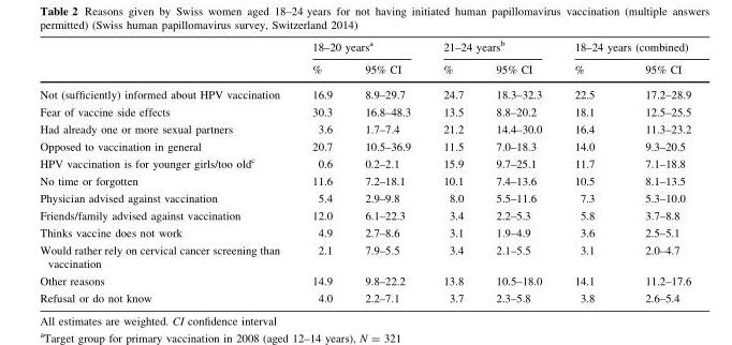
<table><thead><tr><td rowspan="2"></td><td colspan="2">18–20 years<sup>a</sup></td><td colspan="2">21–24 years<sup>b</sup></td><td colspan="2">18–24 years (combined)</td></tr><tr><td>%</td><td>95% CI</td><td>%</td><td>95% CI</td><td>%</td><td>95% CI</td></tr></thead><tbody><tr><td>Not (sufficiently) informed about HPV vaccination</td><td>16.9</td><td>8.9–29.7</td><td>24.7</td><td>18.3–32.3</td><td>22.5</td><td>17.2–28.9</td></tr><tr><td>Fear of vaccine side effects</td><td>30.3</td><td>16.8–48.3</td><td>13.5</td><td>8.8–20.2</td><td>18.1</td><td>12.5–25.5</td></tr><tr><td>Had already one or more sexual partners</td><td>3.6</td><td>1.7–7.4</td><td>21.2</td><td>14.4–30.0</td><td>16.4</td><td>11.3–23.2</td></tr><tr><td>Opposed to vaccination in general</td><td>20.7</td><td>10.5–36.9</td><td>11.5</td><td>7.0–18.3</td><td>14.0</td><td>9.3–20.5</td></tr><tr><td>HPV vaccination is for younger girls/too old<sup>c</sup></td><td>0.6</td><td>0.2–2.1</td><td>15.9</td><td>9.7–25.1</td><td>11.7</td><td>7.1–18.8</td></tr><tr><td>No time or forgotten</td><td>11.6</td><td>7.2–18.1</td><td>10.1</td><td>7.4–13.6</td><td>10.5</td><td>8.1–13.5</td></tr><tr><td>Physician advised against vaccination</td><td>5.4</td><td>2.9–9.8</td><td>8.0</td><td>5.5–11.6</td><td>7.3</td><td>5.3–10.0</td></tr><tr><td>Friends/family advised against vaccination</td><td>12.0</td><td>6.1–22.3</td><td>3.4</td><td>2.2–5.3</td><td>5.8</td><td>3.7–8.8</td></tr><tr><td>Thinks vaccine does not work</td><td>4.9</td><td>2.7–8.6</td><td>3.1</td><td>1.9–4.9</td><td>3.6</td><td>2.5–5.1</td></tr><tr><td>Would rather rely on cervical cancer screening than vaccination</td><td>2.1</td><td>7.9–5.5</td><td>3.4</td><td>2.1–5.5</td><td>3.1</td><td>2.0–4.7</td></tr><tr><td>Other reasons</td><td>14.9</td><td>9.8–22.2</td><td>13.8</td><td>10.5–18.0</td><td>14.1</td><td>11.2–17.6</td></tr><tr><td>Refusal or do not know</td><td>4.0</td><td>2.2–7.1</td><td>3.7</td><td>2.3–5.8</td><td>3.8</td><td>2.6–5.4</td></tr></tbody></table>